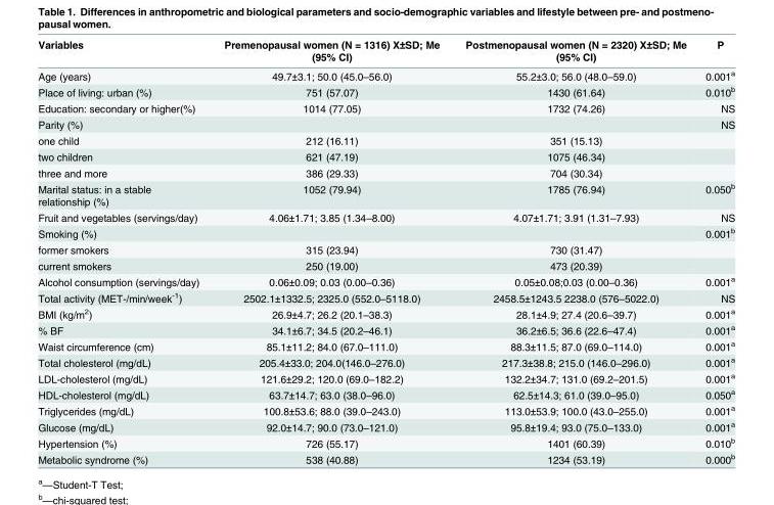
<table><thead><tr><td>Variables</td><td>Premenopausal women (N = 1316) X±SD; Me (95% CI)</td><td>Postmenopausal women (N = 2320) X±SD; Me (95% CI)</td><td>P</td></tr></thead><tbody><tr><td>Age (years)</td><td>49.7±3.1; 50.0 (45.0–56.0)</td><td>55.2±3.0; 56.0 (48.0–59.0)</td><td>0.001<sup>a</sup></td></tr><tr><td>Place of living: urban (%)</td><td>751 (57.07)</td><td>1430 (61.64)</td><td>0.010<sup>b</sup></td></tr><tr><td>Education: secondary or higher(%)</td><td>1014 (77.05)</td><td>1732 (74.26)</td><td>NS</td></tr><tr><td>Parity (%)</td><td></td><td></td><td>NS</td></tr><tr><td>one child</td><td>212 (16.11)</td><td>351 (15.13)</td><td></td></tr><tr><td>two children</td><td>621 (47.19)</td><td>1075 (46.34)</td><td></td></tr><tr><td>three and more</td><td>386 (29.33)</td><td>704 (30.34)</td><td></td></tr><tr><td>Marital status: in a stable relationship (%)</td><td>1052 (79.94)</td><td>1785 (76.94)</td><td>0.050<sup>b</sup></td></tr><tr><td>Fruit and vegetables (servings/day)</td><td>4.06±1.71; 3.85 (1.34–8.00)</td><td>4.07±1.71; 3.91 (1.31–7.93)</td><td>NS</td></tr><tr><td>Smoking (%)</td><td></td><td></td><td>0.001<sup>b</sup></td></tr><tr><td>former smokers</td><td>315 (23.94)</td><td>730 (31.47)</td><td></td></tr><tr><td>current smokers</td><td>250 (19.00)</td><td>473 (20.39)</td><td></td></tr><tr><td>Alcohol consumption (servings/day)</td><td>0.06±0.09; 0.03 (0.00–0.36)</td><td>0.05±0.08;0.03 (0.00–0.36)</td><td>0.001<sup>a</sup></td></tr><tr><td>Total activity (MET-/min/week<sup>-1</sup>)</td><td>2502.1±1332.5; 2325.0 (552.0–5118.0)</td><td>2458.5±1243.5 2238.0 (576–5022.0)</td><td>NS</td></tr><tr><td>BMI (kg/m<sup>2</sup>)</td><td>26.9±4.7; 26.2 (20.1–38.3)</td><td>28.1±4.9; 27.4 (20.6–39.7)</td><td>0.001<sup>a</sup></td></tr><tr><td>% BF</td><td>34.1±6.7; 34.5 (20.2–46.1)</td><td>36.2±6.5; 36.6 (22.6–47.4)</td><td>0.001<sup>a</sup></td></tr><tr><td>Waist circumference (cm)</td><td>85.1±11.2; 84.0 (67.0–111.0)</td><td>88.3±11.5; 87.0 (69.0–114.0)</td><td>0.001<sup>a</sup></td></tr><tr><td>Total cholesterol (mg/dL)</td><td>205.4±33.0; 204.0(146.0–276.0)</td><td>217.3±38.8; 215.0 (146.0–296.0)</td><td>0.001<sup>a</sup></td></tr><tr><td>LDL-cholesterol (mg/dL)</td><td>121.6±29.2; 120.0 (69.0–182.2)</td><td>132.2±34.7; 131.0 (69.2–201.5)</td><td>0.001<sup>a</sup></td></tr><tr><td>HDL-cholesterol (mg/dL)</td><td>63.7±14.7; 63.0 (38.0–96.0)</td><td>62.5±14.3; 61.0 (39.0–95.0)</td><td>0.050<sup>a</sup></td></tr><tr><td>Triglycerides (mg/dL)</td><td>100.8±53.6; 88.0 (39.0–243.0)</td><td>113.0±53.9; 100.0 (43.0–255.0)</td><td>0.001<sup>a</sup></td></tr><tr><td>Glucose (mg/dL)</td><td>92.0±14.7; 90.0 (73.0–121.0)</td><td>95.8±19.4; 93.0 (75.0–133.0)</td><td>0.001<sup>a</sup></td></tr><tr><td>Hypertension (%)</td><td>726 (55.17)</td><td>1401 (60.39)</td><td>0.010<sup>b</sup></td></tr><tr><td>Metabolic syndrome (%)</td><td>538 (40.88)</td><td>1234 (53.19)</td><td>0.000<sup>b</sup></td></tr></tbody></table>